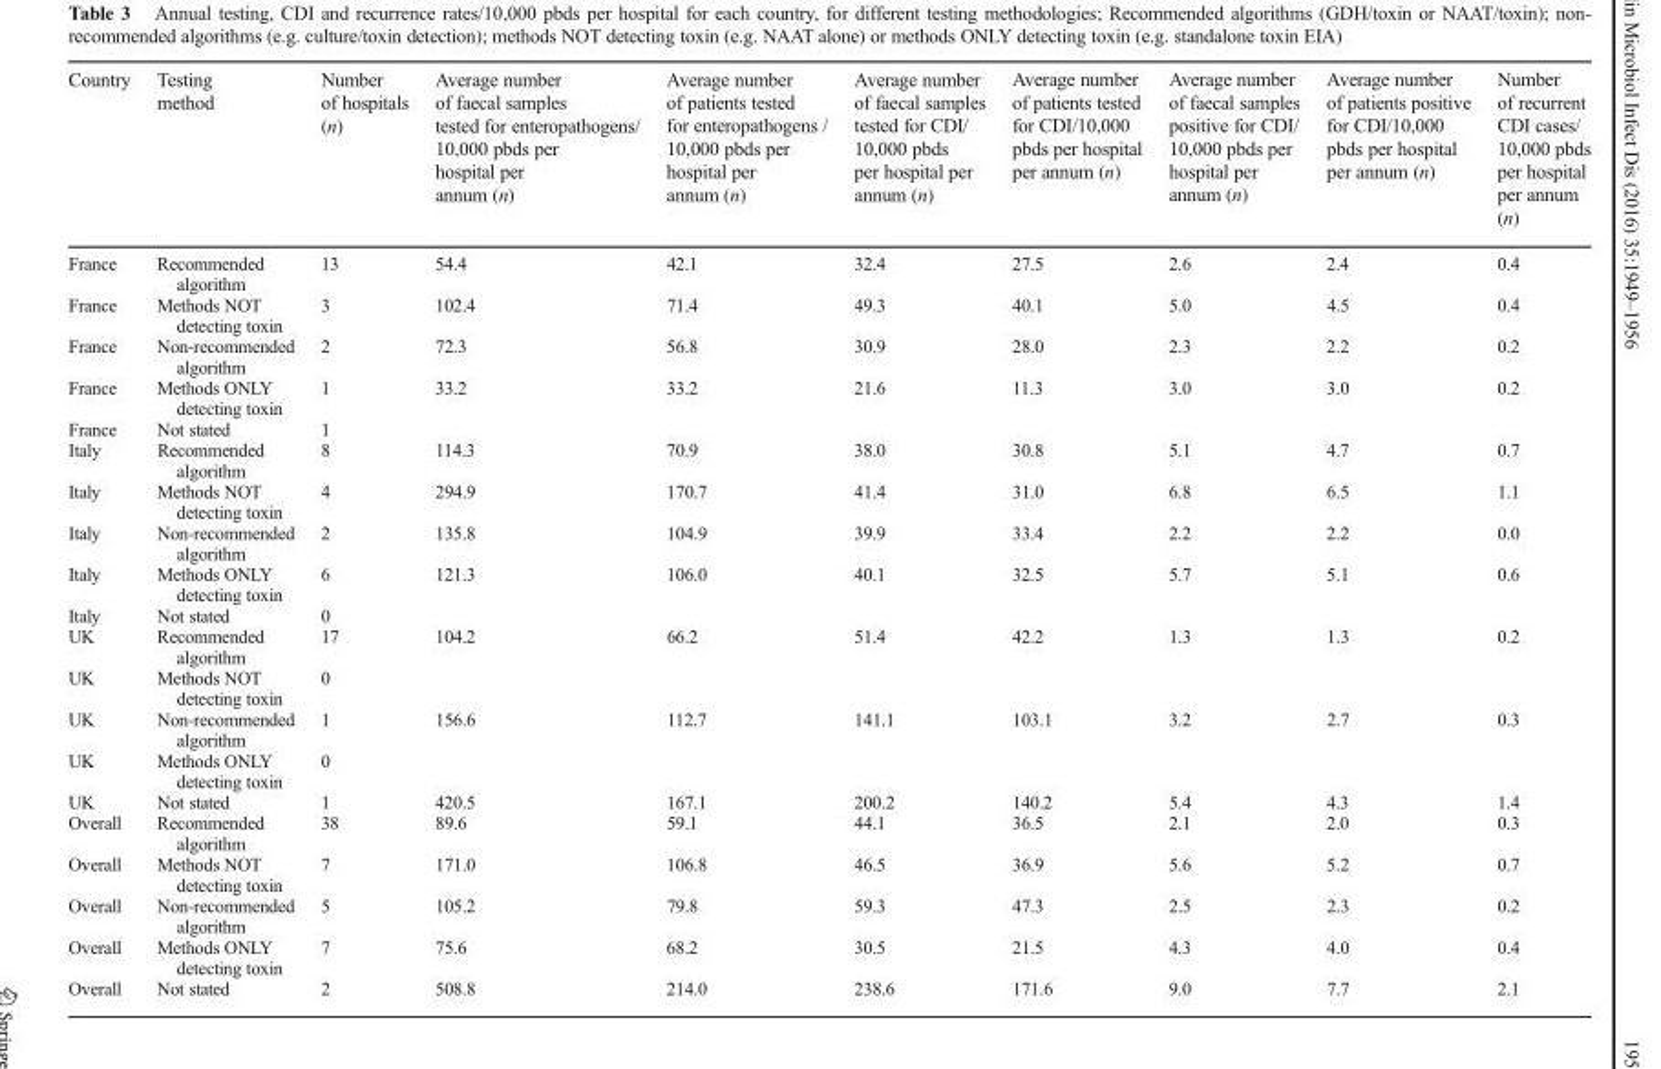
<table><thead><tr><td>Country</td><td>Testing method</td><td>Number of hospitals (n)</td><td>Average number of faecal samples tested for enteropathogens/ 10,000 pbds per hospital per annum (n)</td><td>Average number of patients tested for enteropathogens / 10,000 pbds per hospital per annum (n)</td><td>Average number of faecal samples tested for CDI/ 10,000 pbds per hospital per annum (n)</td><td>Average number of patients tested for CDI/10,000 pbds per hospital per annum (n)</td><td>Average number of faecal samples positive for CDI/ 10,000 pbds per hospital per annum (n)</td><td>Average number of patients positive for CDI/10,000 pbds per hospital per annum (n)</td><td>Number of recurrent CDI cases/ 10,000 pbds per hospital per annum (n)</td></tr></thead><tbody><tr><td>France</td><td>Recommended algorithm</td><td>13</td><td>54.4</td><td>42.1</td><td>32.4</td><td>27.5</td><td>2.6</td><td>2.4</td><td>0.4</td></tr><tr><td>France</td><td>Methods NOT detecting toxin</td><td>3</td><td>102.4</td><td>71.4</td><td>49.3</td><td>40.1</td><td>5.0</td><td>4.5</td><td>0.4</td></tr><tr><td>France</td><td>Non-recommended algorithm</td><td>2</td><td>72.3</td><td>56.8</td><td>30.9</td><td>28.0</td><td>2.3</td><td>2.2</td><td>0.2</td></tr><tr><td>France</td><td>Methods ONLY detecting toxin</td><td>1</td><td>33.2</td><td>33.2</td><td>21.6</td><td>11.3</td><td>3.0</td><td>3.0</td><td>0.2</td></tr><tr><td>France</td><td>Not stated</td><td>1</td><td></td><td></td><td></td><td></td><td></td><td></td><td></td></tr><tr><td>Italy</td><td>Recommended algorithm</td><td>8</td><td>114.3</td><td>70.9</td><td>38.0</td><td>30.8</td><td>5.1</td><td>4.7</td><td>0.7</td></tr><tr><td>Italy</td><td>Methods NOT detecting toxin</td><td>4</td><td>294.9</td><td>170.7</td><td>41.4</td><td>31.0</td><td>6.8</td><td>6.5</td><td>1.1</td></tr><tr><td>Italy</td><td>Non-recommended algorithm</td><td>2</td><td>135.8</td><td>104.9</td><td>39.9</td><td>33.4</td><td>2.2</td><td>2.2</td><td>0.0</td></tr><tr><td>Italy</td><td>Methods ONLY detecting toxin</td><td>6</td><td>121.3</td><td>106.0</td><td>40.1</td><td>32.5</td><td>5.7</td><td>5.1</td><td>0.6</td></tr><tr><td>Italy</td><td>Not stated</td><td>0</td><td></td><td></td><td></td><td></td><td></td><td></td><td></td></tr><tr><td>UK</td><td>Recommended algorithm</td><td>17</td><td>104.2</td><td>66.2</td><td>51.4</td><td>42.2</td><td>1.3</td><td>1.3</td><td>0.2</td></tr><tr><td>UK</td><td>Methods NOT detecting toxin</td><td>0</td><td></td><td></td><td></td><td></td><td></td><td></td><td></td></tr><tr><td>UK</td><td>Non-recommended algorithm</td><td>1</td><td>156.6</td><td>112.7</td><td>141.1</td><td>103.1</td><td>3.2</td><td>2.7</td><td>0.3</td></tr><tr><td>UK</td><td>Methods ONLY detecting toxin</td><td>0</td><td></td><td></td><td></td><td></td><td></td><td></td><td></td></tr><tr><td>UK</td><td>Not stated</td><td>1</td><td>420.5</td><td>167.1</td><td>200.2</td><td>140.2</td><td>5.4</td><td>4.3</td><td>1.4</td></tr><tr><td>Overall</td><td>Recommended algorithm</td><td>38</td><td>89.6</td><td>59.1</td><td>44.1</td><td>36.5</td><td>2.1</td><td>2.0</td><td>0.3</td></tr><tr><td>Overall</td><td>Methods NOT detecting toxin</td><td>7</td><td>171.0</td><td>106.8</td><td>46.5</td><td>36.9</td><td>5.6</td><td>5.2</td><td>0.7</td></tr><tr><td>Overall</td><td>Non-recommended algorithm</td><td>5</td><td>105.2</td><td>79.8</td><td>59.3</td><td>47.3</td><td>2.5</td><td>2.3</td><td>0.2</td></tr><tr><td>Overall</td><td>Methods ONLY detecting toxin</td><td>7</td><td>75.6</td><td>68.2</td><td>30.5</td><td>21.5</td><td>4.3</td><td>4.0</td><td>0.4</td></tr><tr><td>Overall</td><td>Not stated</td><td>2</td><td>508.8</td><td>214.0</td><td>238.6</td><td>171.6</td><td>9.0</td><td>7.7</td><td>2.1</td></tr></tbody></table>